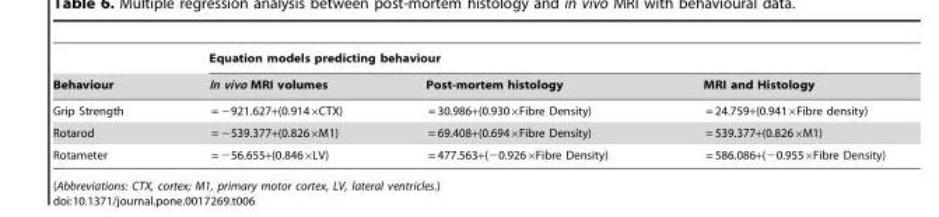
<table><thead><tr><td rowspan="2">Behaviour</td><td colspan="3">Equation models predicting behaviour</td></tr><tr><td>In vivo MRI volumes</td><td>Post-mortem histology</td><td>MRI and Histology</td></tr></thead><tbody><tr><td>Grip Strength</td><td>= −921.627+(0.914×CTX)</td><td>= 30.986+(0.930×Fibre Density)</td><td>= 24.759+(0.941×Fibre density)</td></tr><tr><td>Rotarod</td><td>= −539.377+(0.826×M1)</td><td>= 69.408+(0.694×Fibre Density)</td><td>= 539.377+(0.826×M1)</td></tr><tr><td>Rotameter</td><td>= −56.655+(0.846×LV)</td><td>= 477.563+(−0.926×Fibre Density)</td><td>= 586.086+(−0.955×Fibre Density)</td></tr></tbody></table>